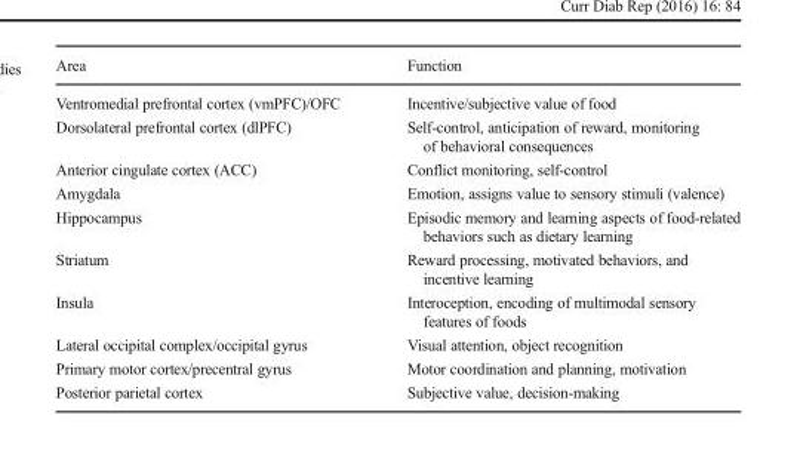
<table><thead><tr><td>Area</td><td>Function</td></tr></thead><tbody><tr><td>Ventromedial prefrontal cortex (vmPFC)/OFC</td><td>Incentive/subjective value of food</td></tr><tr><td>Dorsolateral prefrontal cortex (dlPFC)</td><td>Self-control, anticipation of reward, monitoring of behavioral consequences</td></tr><tr><td>Anterior cingulate cortex (ACC)</td><td>Conflict monitoring, self-control</td></tr><tr><td>Amygdala</td><td>Emotion, assigns value to sensory stimuli (valence)</td></tr><tr><td>Hippocampus</td><td>Episodic memory and learning aspects of food-related behaviors such as dietary learning</td></tr><tr><td>Striatum</td><td>Reward processing, motivated behaviors, and incentive learning</td></tr><tr><td>Insula</td><td>Interoception, encoding of multimodal sensory features of foods</td></tr><tr><td>Lateral occipital complex/occipital gyrus</td><td>Visual attention, object recognition</td></tr><tr><td>Primary motor cortex/precentral gyrus</td><td>Motor coordination and planning, motivation</td></tr><tr><td>Posterior parietal cortex</td><td>Subjective value, decision-making</td></tr></tbody></table>